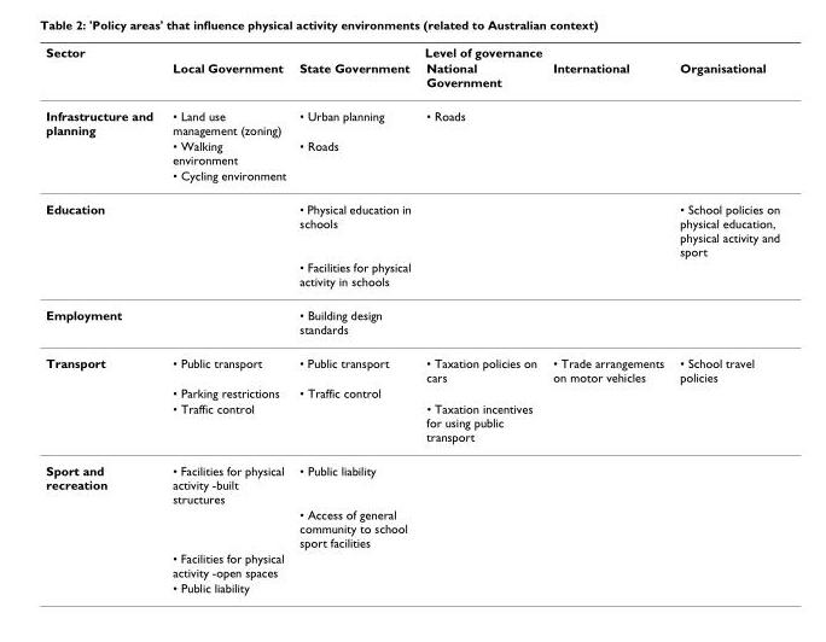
<table><thead><tr><td rowspan="2">Sector</td><td colspan="5">Level of governance</td></tr><tr><td>Local Government</td><td>State Government</td><td>National Government</td><td>International</td><td>Organisational</td></tr></thead><tbody><tr><td rowspan="3">Infrastructure and planning</td><td>• Land use management (zoning)</td><td>• Urban planning</td><td>• Roads</td><td></td><td></td></tr><tr><td>• Walking environment</td><td>• Roads</td><td></td><td></td><td></td></tr><tr><td>• Cycling environment</td><td></td><td></td><td></td><td></td></tr><tr><td rowspan="2">Education</td><td></td><td>• Physical education in schools</td><td></td><td></td><td>• School policies on physical education, physical activity and sport</td></tr><tr><td></td><td>• Facilities for physical activity in schools</td><td></td><td></td><td></td></tr><tr><td>Employment</td><td></td><td>• Building design standards</td><td></td><td></td><td></td></tr><tr><td rowspan="3">Transport</td><td>• Public transport</td><td>• Public transport</td><td>• Taxation policies on cars</td><td>• Trade arrangements on motor vehicles</td><td>• School travel policies</td></tr><tr><td>• Parking restrictions</td><td>• Traffic control</td><td></td><td></td><td></td></tr><tr><td>• Traffic control</td><td></td><td>• Taxation incentives for using public transport</td><td></td><td></td></tr><tr><td rowspan="4">Sport and recreation</td><td>• Facilities for physical activity -built structures</td><td>• Public liability</td><td></td><td></td><td></td></tr><tr><td></td><td>• Access of general community to school sport facilities</td><td></td><td></td><td></td></tr><tr><td>• Facilities for physical activity -open spaces</td><td></td><td></td><td></td><td></td></tr><tr><td>• Public liability</td><td></td><td></td><td></td><td></td></tr></tbody></table>